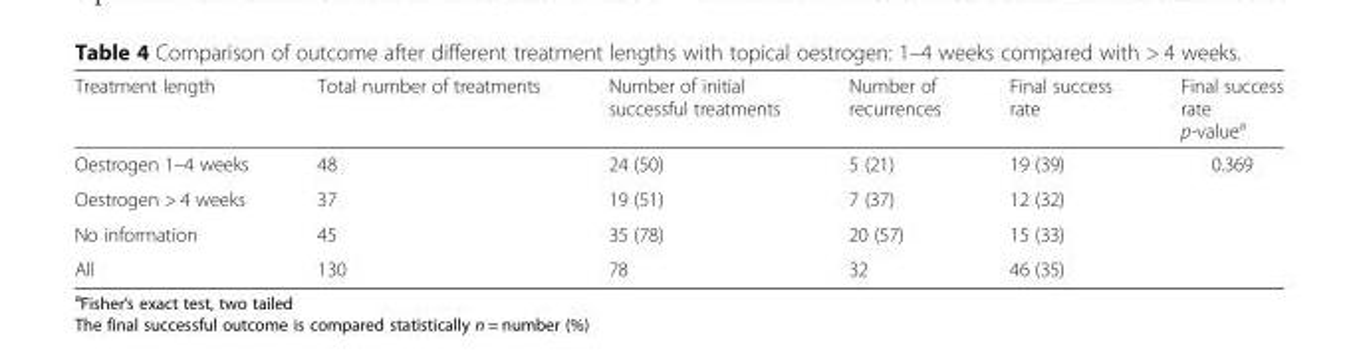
<table><thead><tr><td>Treatment length</td><td>Total number of treatments</td><td>Number of initial successful treatments</td><td>Number of recurrences</td><td>Final success rate</td><td>Final success rate p-value<sup>a</sup></td></tr></thead><tbody><tr><td>Oestrogen 1–4 weeks</td><td>48</td><td>24 (50)</td><td>5 (21)</td><td>19 (39)</td><td rowspan="2">0.369</td></tr><tr><td>Oestrogen &gt; 4 weeks</td><td>37</td><td>19 (51)</td><td>7 (37)</td><td>12 (32)</td></tr><tr><td>No information</td><td>45</td><td>35 (78)</td><td>20 (57)</td><td>15 (33)</td><td></td></tr><tr><td>All</td><td>130</td><td>78</td><td>32</td><td>46 (35)</td><td></td></tr></tbody></table>